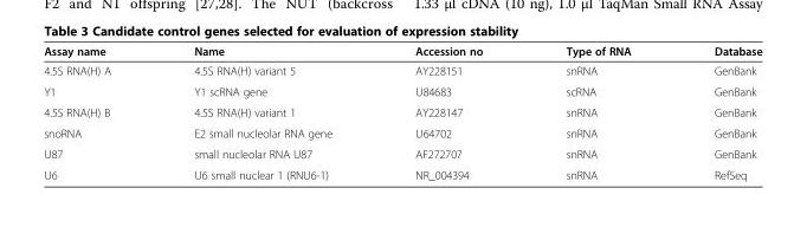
<table><thead><tr><td>Assay name</td><td>Name</td><td>Accession no</td><td>Type of RNA</td><td>Database</td></tr></thead><tbody><tr><td>4.5S RNA(H) A</td><td>4.5S RNA(H) variant 5</td><td>AY228151</td><td>snRNA</td><td>GenBank</td></tr><tr><td>Y1</td><td>Y1 scRNA gene</td><td>U84683</td><td>scRNA</td><td>GenBank</td></tr><tr><td>4.5S RNA(H) B</td><td>4.5S RNA(H) variant 1</td><td>AY228147</td><td>snRNA</td><td>GenBank</td></tr><tr><td>snoRNA</td><td>E2 small nucleolar RNA gene</td><td>U64702</td><td>snRNA</td><td>GenBank</td></tr><tr><td>U87</td><td>small nucleolar RNA U87</td><td>AF272707</td><td>snRNA</td><td>GenBank</td></tr><tr><td>U6</td><td>U6 small nuclear 1 (RNU6-1)</td><td>NR_004394</td><td>snRNA</td><td>RefSeq</td></tr></tbody></table>